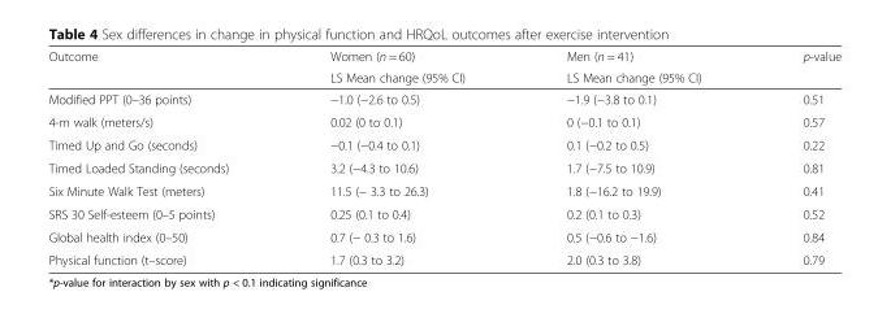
<table><thead><tr><td rowspan="2">Outcome</td><td rowspan="2">Women (n = 60) LS Mean change (95% CI)</td><td rowspan="2">Men (n = 41) LS Mean change (95% CI)</td><td rowspan="2">p-value</td></tr><tr></tr></thead><tbody><tr><td>Modified PPT (0–36 points)</td><td>−1.0 (−2.6 to 0.5)</td><td>−1.9 (−3.8 to 0.1)</td><td>0.51</td></tr><tr><td>4-m walk (meters/s)</td><td>0.02 (0 to 0.1)</td><td>0 (−0.1 to 0.1)</td><td>0.57</td></tr><tr><td>Timed Up and Go (seconds)</td><td>−0.1 (−0.4 to 0.1)</td><td>0.1 (−0.2 to 0.5)</td><td>0.22</td></tr><tr><td>Timed Loaded Standing (seconds)</td><td>3.2 (−4.3 to 10.6)</td><td>1.7 (−7.5 to 10.9)</td><td>0.81</td></tr><tr><td>Six Minute Walk Test (meters)</td><td>11.5 (− 3.3 to 26.3)</td><td>1.8 (−16.2 to 19.9)</td><td>0.41</td></tr><tr><td>SRS 30 Self-esteem (0–5 points)</td><td>0.25 (0.1 to 0.4)</td><td>0.2 (0.1 to 0.3)</td><td>0.52</td></tr><tr><td>Global health index (0–50)</td><td>0.7 (− 0.3 to 1.6)</td><td>0.5 (−0.6 to −1.6)</td><td>0.84</td></tr><tr><td>Physical function (t–score)</td><td>1.7 (0.3 to 3.2)</td><td>2.0 (0.3 to 3.8)</td><td>0.79</td></tr></tbody></table>